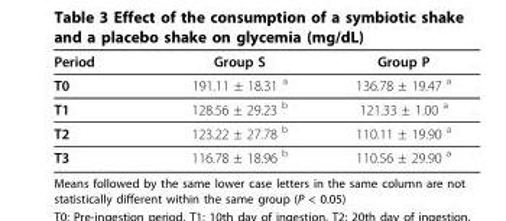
<table><thead><tr><td>Period</td><td>Group S</td><td>Group P</td></tr></thead><tbody><tr><td>T0</td><td>191.11 ± 18.31 <sup>a</sup></td><td>136.78 ± 19.47 <sup>a</sup></td></tr><tr><td>T1</td><td>128.56 ± 29.23 <sup>b</sup></td><td>121.33 ± 1.00 <sup>a</sup></td></tr><tr><td>T2</td><td>123.22 ± 27.78 <sup>b</sup></td><td>110.11 ± 19.90 <sup>a</sup></td></tr><tr><td>T3</td><td>116.78 ± 18.96 <sup>b</sup></td><td>110.56 ± 29.90 <sup>a</sup></td></tr></tbody></table>